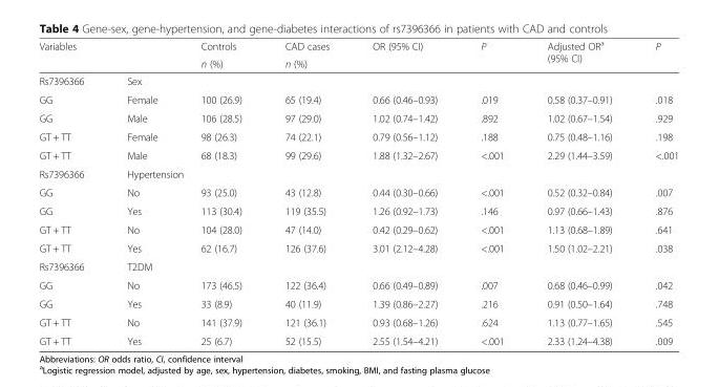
<table><thead><tr><td rowspan="2">Variables</td><td rowspan="2"></td><td rowspan="2">Controls n (%)</td><td rowspan="2">CAD cases n (%)</td><td rowspan="2">OR (95% CI)</td><td rowspan="2">P</td><td rowspan="2">Adjusted OR<sup>a</sup> (95% CI)</td><td rowspan="2">P</td></tr><tr></tr></thead><tbody><tr><td>Rs7396366</td><td colspan="7">Sex</td></tr><tr><td>GG</td><td>Female</td><td>100 (26.9)</td><td>65 (19.4)</td><td>0.66 (0.46–0.93)</td><td>.019</td><td>0.58 (0.37–0.91)</td><td>.018</td></tr><tr><td>GG</td><td>Male</td><td>106 (28.5)</td><td>97 (29.0)</td><td>1.02 (0.74–1.42)</td><td>.892</td><td>1.02 (0.67–1.54)</td><td>.929</td></tr><tr><td>GT + TT</td><td>Female</td><td>98 (26.3)</td><td>74 (22.1)</td><td>0.79 (0.56–1.12)</td><td>.188</td><td>0.75 (0.48–1.16)</td><td>.198</td></tr><tr><td>GT + TT</td><td>Male</td><td>68 (18.3)</td><td>99 (29.6)</td><td>1.88 (1.32–2.67)</td><td>&lt;.001</td><td>2.29 (1.44–3.59)</td><td>&lt;.001</td></tr><tr><td>Rs7396366</td><td colspan="7">Hypertension</td></tr><tr><td>GG</td><td>No</td><td>93 (25.0)</td><td>43 (12.8)</td><td>0.44 (0.30–0.66)</td><td>&lt;.001</td><td>0.52 (0.32–0.84)</td><td>.007</td></tr><tr><td>GG</td><td>Yes</td><td>113 (30.4)</td><td>119 (35.5)</td><td>1.26 (0.92–1.73)</td><td>.146</td><td>0.97 (0.66–1.43)</td><td>.876</td></tr><tr><td>GT + TT</td><td>No</td><td>104 (28.0)</td><td>47 (14.0)</td><td>0.42 (0.29–0.62)</td><td>&lt;.001</td><td>1.13 (0.68–1.89)</td><td>.641</td></tr><tr><td>GT + TT</td><td>Yes</td><td>62 (16.7)</td><td>126 (37.6)</td><td>3.01 (2.12–4.28)</td><td>&lt;.001</td><td>1.50 (1.02–2.21)</td><td>.038</td></tr><tr><td>Rs7396366</td><td colspan="7">T2DM</td></tr><tr><td>GG</td><td>No</td><td>173 (46.5)</td><td>122 (36.4)</td><td>0.66 (0.49–0.89)</td><td>.007</td><td>0.68 (0.46–0.99)</td><td>.042</td></tr><tr><td>GG</td><td>Yes</td><td>33 (8.9)</td><td>40 (11.9)</td><td>1.39 (0.86–2.27)</td><td>.216</td><td>0.91 (0.50–1.64)</td><td>.748</td></tr><tr><td>GT + TT</td><td>No</td><td>141 (37.9)</td><td>121 (36.1)</td><td>0.93 (0.68–1.26)</td><td>.624</td><td>1.13 (0.77–1.65)</td><td>.545</td></tr><tr><td>GT + TT</td><td>Yes</td><td>25 (6.7)</td><td>52 (15.5)</td><td>2.55 (1.54–4.21)</td><td>&lt;.001</td><td>2.33 (1.24–4.38)</td><td>.009</td></tr></tbody></table>